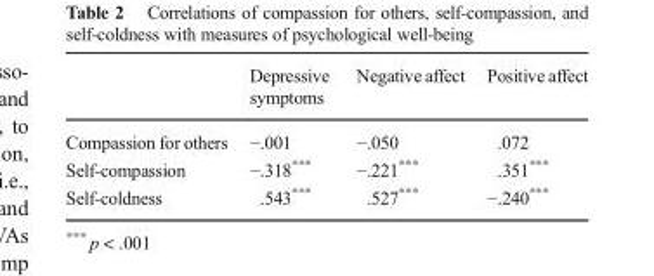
<table><thead><tr><td></td><td>Depressive symptoms</td><td>Negative affect</td><td>Positive affect</td></tr></thead><tbody><tr><td>Compassion for others</td><td>−.001</td><td>−.050</td><td>.072</td></tr><tr><td>Self-compassion</td><td>−.318***</td><td>−.221***</td><td>.351***</td></tr><tr><td>Self-coldness</td><td>.543***</td><td>.527***</td><td>−.240***</td></tr></tbody></table>